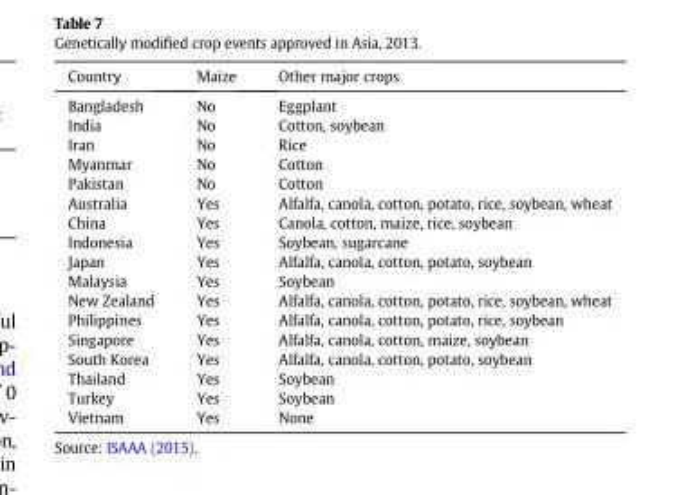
<table><thead><tr><td>Country</td><td>Maize</td><td>Other major crops</td></tr></thead><tbody><tr><td>Bangladesh</td><td>No</td><td>Eggplant</td></tr><tr><td>India</td><td>No</td><td>Cotton, soybean</td></tr><tr><td>Iran</td><td>No</td><td>Rice</td></tr><tr><td>Myanmar</td><td>No</td><td>Cotton</td></tr><tr><td>Pakistan</td><td>No</td><td>Cotton</td></tr><tr><td>Australia</td><td>Yes</td><td>Alfalfa, canola, cotton, potato, rice, soybean, wheat</td></tr><tr><td>China</td><td>Yes</td><td>Canola, cotton, maize, rice, soybean</td></tr><tr><td>Indonesia</td><td>Yes</td><td>Soybean, sugarcane</td></tr><tr><td>Japan</td><td>Yes</td><td>Alfalfa, canola, cotton, potato, soybean</td></tr><tr><td>Malaysia</td><td>Yes</td><td>Soybean</td></tr><tr><td>New Zealand</td><td>Yes</td><td>Alfalfa, canola, cotton, potato, rice, soybean, wheat</td></tr><tr><td>Philippines</td><td>Yes</td><td>Alfalfa, canola, cotton, potato, rice, soybean</td></tr><tr><td>Singapore</td><td>Yes</td><td>Alfalfa, canola, cotton, maize, soybean</td></tr><tr><td>South Korea</td><td>Yes</td><td>Alfalfa, canola, cotton, potato, soybean</td></tr><tr><td>Thailand</td><td>Yes</td><td>Soybean</td></tr><tr><td>Turkey</td><td>Yes</td><td>Soybean</td></tr><tr><td>Vietnam</td><td>Yes</td><td>None</td></tr></tbody></table>